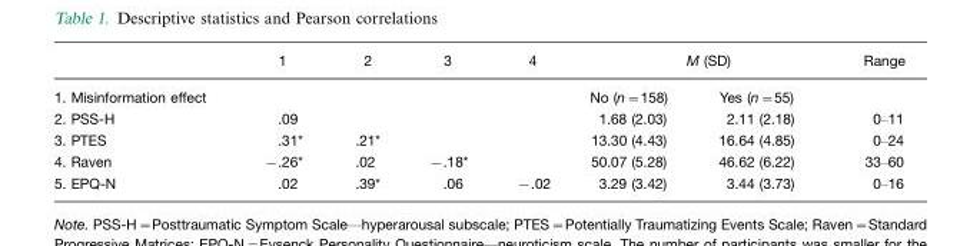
<table><thead><tr><td rowspan="2">1. Misinformation effect</td><td rowspan="2">1</td><td rowspan="2">2</td><td rowspan="2">3</td><td rowspan="2">4</td><td colspan="2">M (SD)</td><td rowspan="2">Range</td></tr><tr><td>No (n=158)</td><td>Yes (n=55)</td></tr></thead><tbody><tr><td>2. PSS-H</td><td>.09</td><td></td><td></td><td></td><td>1.68 (2.03)</td><td>2.11 (2.18)</td><td>0–11</td></tr><tr><td>3. PTES</td><td>.31*</td><td>.21*</td><td></td><td></td><td>13.30 (4.43)</td><td>16.64 (4.85)</td><td>0–24</td></tr><tr><td>4. Raven</td><td>−.26*</td><td>.02</td><td>−.18*</td><td></td><td>50.07 (5.28)</td><td>46.62 (6.22)</td><td>33–60</td></tr><tr><td>5. EPQ-N</td><td>.02</td><td>.39*</td><td>.06</td><td>−.02</td><td>3.29 (3.42)</td><td>3.44 (3.73)</td><td>0–16</td></tr></tbody></table>